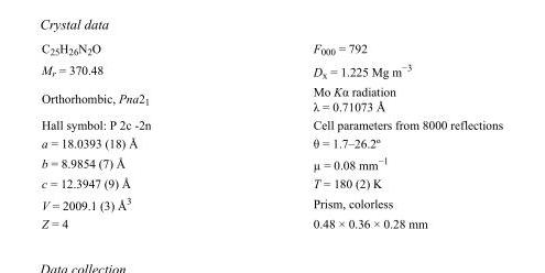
<table><tbody><tr><td>C<sub>25</sub>H<sub>26</sub>N<sub>2</sub>O</td><td>F000 = 792</td></tr><tr><td>M<sub>r</sub> = 370.48</td><td>D<sub>x</sub> = 1.225 Mg m<sup>−3</sup></td></tr><tr><td>Orthorhombic, Pna2<sub>1</sub></td><td>Mo Kα radiation λ = 0.71073 Å</td></tr><tr><td>Hall symbol: P 2c -2n</td><td>Cell parameters from 8000 reflections</td></tr><tr><td>a = 18.0393 (18) Å</td><td>θ = 1.7–26.2º</td></tr><tr><td>b = 8.9854 (7) Å</td><td>µ = 0.08 mm<sup>−1</sup></td></tr><tr><td>c = 12.3947 (9) Å</td><td>T = 180 (2) K</td></tr><tr><td>V = 2009.1 (3) Å<sup>3</sup></td><td>Prism, colorless</td></tr><tr><td>Z = 4</td><td>0.48 × 0.36 × 0.28 mm</td></tr></tbody></table>